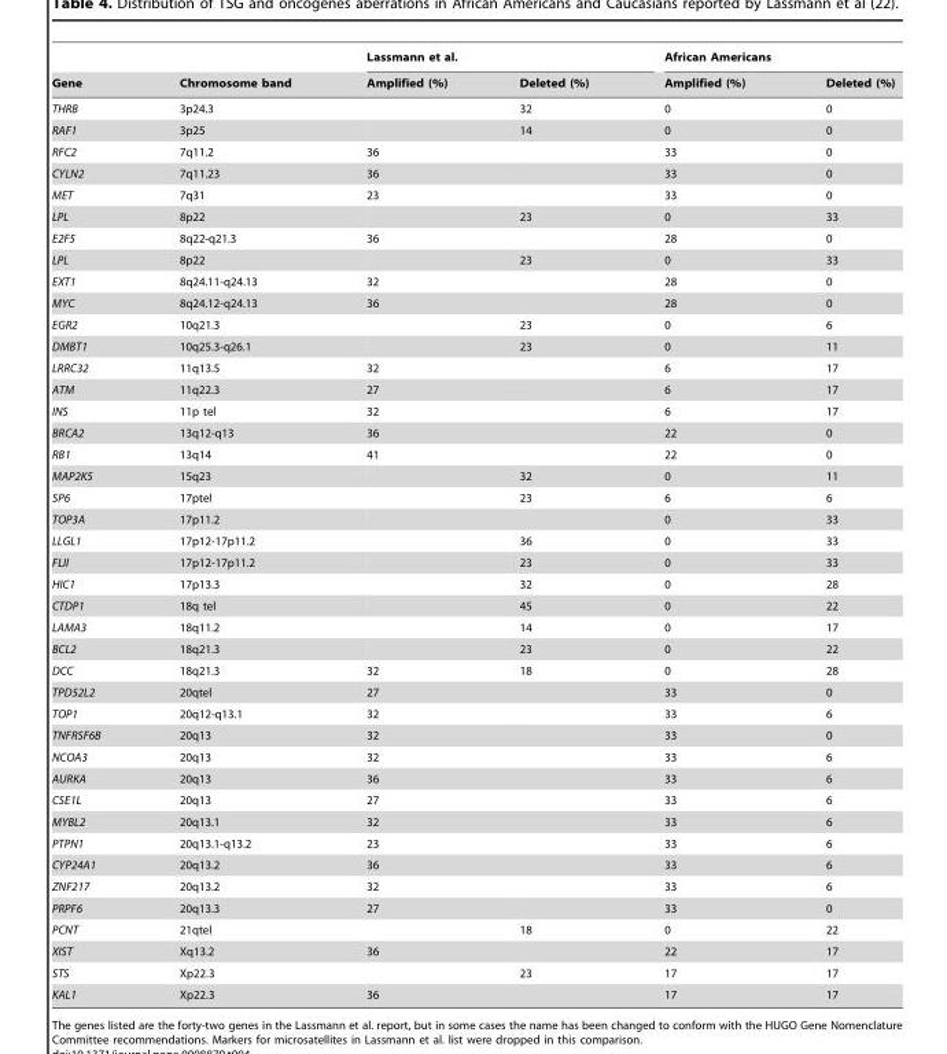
<table><thead><tr><td rowspan="2">Gene</td><td rowspan="2">Chromosome band</td><td colspan="2">Lassmann et al.</td><td colspan="2">African Americans</td></tr><tr><td>Amplified (%)</td><td>Deleted (%)</td><td>Amplified (%)</td><td>Deleted (%)</td></tr></thead><tbody><tr><td>THRB</td><td>3p24.3</td><td></td><td>32</td><td>0</td><td>0</td></tr><tr><td>RAF1</td><td>3p25</td><td></td><td>14</td><td>0</td><td>0</td></tr><tr><td>RFC2</td><td>7q11.2</td><td>36</td><td></td><td>33</td><td>0</td></tr><tr><td>CYLN2</td><td>7q11.23</td><td>36</td><td></td><td>33</td><td>0</td></tr><tr><td>MET</td><td>7q31</td><td>23</td><td></td><td>33</td><td>0</td></tr><tr><td>LPL</td><td>8p22</td><td></td><td>23</td><td>0</td><td>33</td></tr><tr><td>E2F5</td><td>8q22-q21.3</td><td>36</td><td></td><td>28</td><td>0</td></tr><tr><td>LPL</td><td>8p22</td><td></td><td>23</td><td>0</td><td>33</td></tr><tr><td>EXT1</td><td>8q24.11-q24.13</td><td>32</td><td></td><td>28</td><td>0</td></tr><tr><td>MYC</td><td>8q24.12-q24.13</td><td>36</td><td></td><td>28</td><td>0</td></tr><tr><td>EGR2</td><td>10q21.3</td><td></td><td>23</td><td>0</td><td>6</td></tr><tr><td>DMBT1</td><td>10q25.3-q26.1</td><td></td><td>23</td><td>0</td><td>11</td></tr><tr><td>LRRC32</td><td>11q13.5</td><td>32</td><td></td><td>6</td><td>17</td></tr><tr><td>ATM</td><td>11q22.3</td><td>27</td><td></td><td>6</td><td>17</td></tr><tr><td>INS</td><td>11p tel</td><td>32</td><td></td><td>6</td><td>17</td></tr><tr><td>BRCA2</td><td>13q12-q13</td><td>36</td><td></td><td>22</td><td>0</td></tr><tr><td>RB1</td><td>13q14</td><td>41</td><td></td><td>22</td><td>0</td></tr><tr><td>MAP2K5</td><td>15q23</td><td></td><td>32</td><td>0</td><td>11</td></tr><tr><td>SP6</td><td>17ptel</td><td></td><td>23</td><td>6</td><td>6</td></tr><tr><td>TOP3A</td><td>17p11.2</td><td></td><td></td><td>0</td><td>33</td></tr><tr><td>LLGL1</td><td>17p12-17p11.2</td><td></td><td>36</td><td>0</td><td>33</td></tr><tr><td>FLII</td><td>17p12-17p11.2</td><td></td><td>23</td><td>0</td><td>33</td></tr><tr><td>HIC1</td><td>17p13.3</td><td></td><td>32</td><td>0</td><td>28</td></tr><tr><td>CTDP1</td><td>18q tel</td><td></td><td>45</td><td>0</td><td>22</td></tr><tr><td>LAMA3</td><td>18q11.2</td><td></td><td>14</td><td>0</td><td>17</td></tr><tr><td>BCL2</td><td>18q21.3</td><td></td><td>23</td><td>0</td><td>22</td></tr><tr><td>DCC</td><td>18q21.3</td><td>32</td><td>18</td><td>0</td><td>28</td></tr><tr><td>TPD52L2</td><td>20qtel</td><td>27</td><td></td><td>33</td><td>0</td></tr><tr><td>TOP1</td><td>20q12-q13.1</td><td>32</td><td></td><td>33</td><td>6</td></tr><tr><td>TNFRSF6B</td><td>20q13</td><td>32</td><td></td><td>33</td><td>0</td></tr><tr><td>NCOA3</td><td>20q13</td><td>32</td><td></td><td>33</td><td>6</td></tr><tr><td>AURKA</td><td>20q13</td><td>36</td><td></td><td>33</td><td>6</td></tr><tr><td>CSE1L</td><td>20q13</td><td>27</td><td></td><td>33</td><td>6</td></tr><tr><td>MYBL2</td><td>20q13.1</td><td>32</td><td></td><td>33</td><td>6</td></tr><tr><td>PTPN1</td><td>20q13.1-q13.2</td><td>23</td><td></td><td>33</td><td>6</td></tr><tr><td>CYP24A1</td><td>20q13.2</td><td>36</td><td></td><td>33</td><td>6</td></tr><tr><td>ZNF217</td><td>20q13.2</td><td>32</td><td></td><td>33</td><td>6</td></tr><tr><td>PRPF6</td><td>20q13.3</td><td>27</td><td></td><td>33</td><td>0</td></tr><tr><td>PCNT</td><td>21qtel</td><td></td><td>18</td><td>0</td><td>22</td></tr><tr><td>XIST</td><td>Xq13.2</td><td>36</td><td></td><td>22</td><td>17</td></tr><tr><td>STS</td><td>Xp22.3</td><td></td><td>23</td><td>17</td><td>17</td></tr><tr><td>KAL1</td><td>Xp22.3</td><td>36</td><td></td><td>17</td><td>17</td></tr></tbody></table>